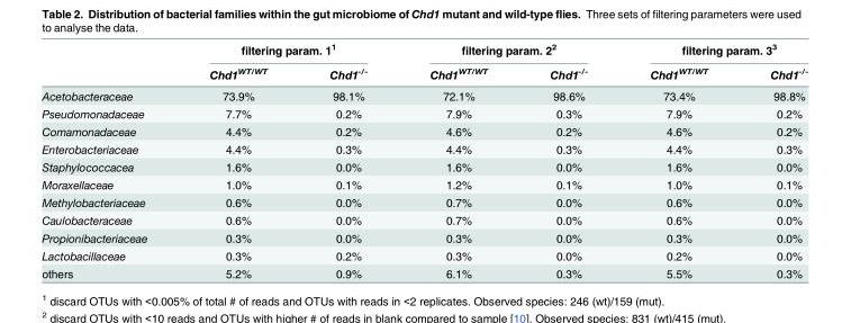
<table><thead><tr><td rowspan="2"></td><td colspan="2">filtering param. 1<sup>1</sup></td><td colspan="2">filtering param. 2<sup>2</sup></td><td colspan="2">filtering param. 3<sup>3</sup></td></tr><tr><td>Chd1<sup>WT/WT</sup></td><td>Chd1<sup>-/-</sup></td><td>Chd1<sup>WT/WT</sup></td><td>Chd1<sup>-/-</sup></td><td>Chd1<sup>WT/WT</sup></td><td>Chd1<sup>-/-</sup></td></tr></thead><tbody><tr><td>Acetobacteraceae</td><td>73.9%</td><td>98.1%</td><td>72.1%</td><td>98.6%</td><td>73.4%</td><td>98.8%</td></tr><tr><td>Pseudomonadaceae</td><td>7.7%</td><td>0.2%</td><td>7.9%</td><td>0.3%</td><td>7.9%</td><td>0.2%</td></tr><tr><td>Comamonadaceae</td><td>4.4%</td><td>0.2%</td><td>4.6%</td><td>0.2%</td><td>4.6%</td><td>0.2%</td></tr><tr><td>Enterobacteriaceae</td><td>4.4%</td><td>0.3%</td><td>4.4%</td><td>0.3%</td><td>4.4%</td><td>0.3%</td></tr><tr><td>Staphylococcacea</td><td>1.6%</td><td>0.0%</td><td>1.6%</td><td>0.0%</td><td>1.6%</td><td>0.0%</td></tr><tr><td>Moraxellaceae</td><td>1.0%</td><td>0.1%</td><td>1.2%</td><td>0.1%</td><td>1.0%</td><td>0.1%</td></tr><tr><td>Methylobacteriaceae</td><td>0.6%</td><td>0.0%</td><td>0.7%</td><td>0.0%</td><td>0.6%</td><td>0.0%</td></tr><tr><td>Caulobacteraceae</td><td>0.6%</td><td>0.0%</td><td>0.7%</td><td>0.0%</td><td>0.6%</td><td>0.0%</td></tr><tr><td>Propionibacteriaceae</td><td>0.3%</td><td>0.0%</td><td>0.3%</td><td>0.0%</td><td>0.3%</td><td>0.0%</td></tr><tr><td>Lactobacillaceae</td><td>0.3%</td><td>0.2%</td><td>0.3%</td><td>0.0%</td><td>0.2%</td><td>0.0%</td></tr><tr><td>others</td><td>5.2%</td><td>0.9%</td><td>6.1%</td><td>0.3%</td><td>5.5%</td><td>0.3%</td></tr></tbody></table>